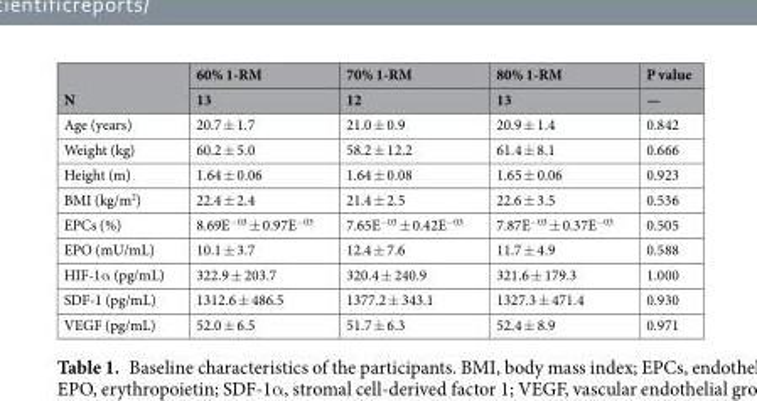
<table><thead><tr><td rowspan="2">N</td><td rowspan="2">60% 1-RM 13</td><td rowspan="2">70% 1-RM 12</td><td rowspan="2">80% 1-RM 13</td><td rowspan="2">P value —</td></tr><tr></tr></thead><tbody><tr><td>Age (years)</td><td>20.7 ± 1.7</td><td>21.0 ± 0.9</td><td>20.9 ± 1.4</td><td>0.842</td></tr><tr><td>Weight (kg)</td><td>60.2 ± 5.0</td><td>58.2 ± 12.2</td><td>61.4 ± 8.1</td><td>0.666</td></tr><tr><td>Height (m)</td><td>1.64 ± 0.06</td><td>1.64 ± 0.08</td><td>1.65 ± 0.06</td><td>0.923</td></tr><tr><td>BMI (kg/m<sup>2</sup>)</td><td>22.4 ± 2.4</td><td>21.4 ± 2.5</td><td>22.6 ± 3.5</td><td>0.536</td></tr><tr><td>EPCs (%)</td><td>8.69E<sup>−03</sup> ± 0.97E<sup>−03</sup></td><td>7.65E<sup>−03</sup> ± 0.42E<sup>−03</sup></td><td>7.87E<sup>−03</sup> ± 0.37E<sup>−03</sup></td><td>0.505</td></tr><tr><td>EPO (mU/mL)</td><td>10.1 ± 3.7</td><td>12.4 ± 7.6</td><td>11.7 ± 4.9</td><td>0.588</td></tr><tr><td>HIF-1α (pg/mL)</td><td>322.9 ± 203.7</td><td>320.4 ± 240.9</td><td>321.6 ± 179.3</td><td>1.000</td></tr><tr><td>SDF-1 (pg/mL)</td><td>1312.6 ± 486.5</td><td>1377.2 ± 343.1</td><td>1327.3 ± 471.4</td><td>0.930</td></tr><tr><td>VEGF (pg/mL)</td><td>52.0 ± 6.5</td><td>51.7 ± 6.3</td><td>52.4 ± 8.9</td><td>0.971</td></tr></tbody></table>